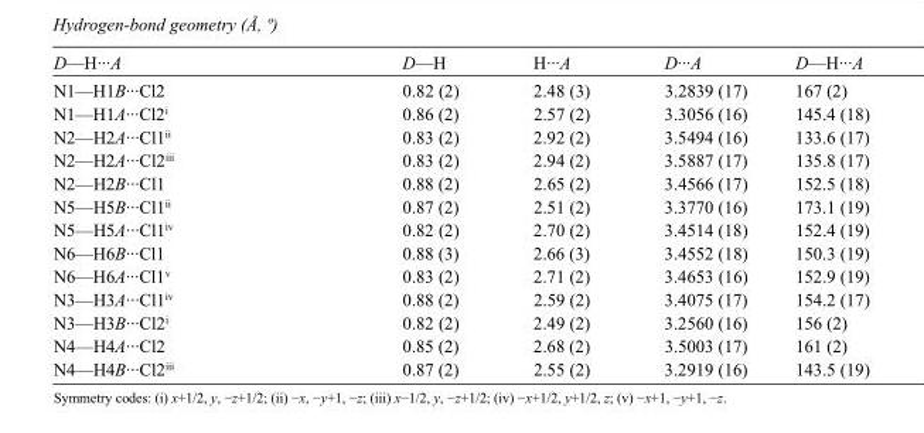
<table><tbody><tr><td>D—H···A</td><td>D—H</td><td>H···A</td><td>D···A</td><td>D—H···A</td></tr><tr><td>N1—H1B···Cl2</td><td>0.82 (2)</td><td>2.48 (3)</td><td>3.2839 (17)</td><td>167 (2)</td></tr><tr><td>N1—H1A···Cl2<sup>i</sup></td><td>0.86 (2)</td><td>2.57 (2)</td><td>3.3056 (16)</td><td>145.4 (18)</td></tr><tr><td>N2—H2A···Cl1<sup>ii</sup></td><td>0.83 (2)</td><td>2.92 (2)</td><td>3.5494 (16)</td><td>133.6 (17)</td></tr><tr><td>N2—H2A···Cl2<sup>iii</sup></td><td>0.83 (2)</td><td>2.94 (2)</td><td>3.5887 (17)</td><td>135.8 (17)</td></tr><tr><td>N2—H2B···Cl1</td><td>0.88 (2)</td><td>2.65 (2)</td><td>3.4566 (17)</td><td>152.5 (18)</td></tr><tr><td>N5—H5B···Cl1<sup>ii</sup></td><td>0.87 (2)</td><td>2.51 (2)</td><td>3.3770 (16)</td><td>173.1 (19)</td></tr><tr><td>N5—H5A···Cl1<sup>iv</sup></td><td>0.82 (2)</td><td>2.70 (2)</td><td>3.4514 (18)</td><td>152.4 (19)</td></tr><tr><td>N6—H6B···Cl1</td><td>0.88 (3)</td><td>2.66 (3)</td><td>3.4552 (18)</td><td>150.3 (19)</td></tr><tr><td>N6—H6A···Cl1<sup>v</sup></td><td>0.83 (2)</td><td>2.71 (2)</td><td>3.4653 (16)</td><td>152.9 (19)</td></tr><tr><td>N3—H3A···Cl1<sup>iv</sup></td><td>0.88 (2)</td><td>2.59 (2)</td><td>3.4075 (17)</td><td>154.2 (17)</td></tr><tr><td>N3—H3B···Cl2<sup>i</sup></td><td>0.82 (2)</td><td>2.49 (2)</td><td>3.2560 (16)</td><td>156 (2)</td></tr><tr><td>N4—H4A···Cl2</td><td>0.85 (2)</td><td>2.68 (2)</td><td>3.5003 (17)</td><td>161 (2)</td></tr><tr><td>N4—H4B···Cl2<sup>iii</sup></td><td>0.87 (2)</td><td>2.55 (2)</td><td>3.2919 (16)</td><td>143.5 (19)</td></tr></tbody></table>